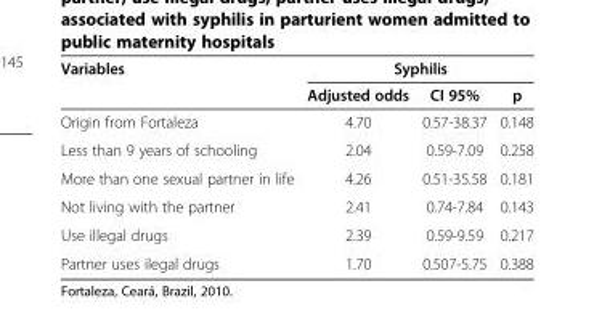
<table><thead><tr><td rowspan="2">Variables</td><td colspan="3">Syphilis</td></tr><tr><td>Adjusted odds</td><td>CI 95%</td><td>p</td></tr></thead><tbody><tr><td>Origin from Fortaleza</td><td>4.70</td><td>0.57-38.37</td><td>0.148</td></tr><tr><td>Less than 9 years of schooling</td><td>2.04</td><td>0.59-7.09</td><td>0.258</td></tr><tr><td>More than one sexual partner in life</td><td>4.26</td><td>0.51-35.58</td><td>0.181</td></tr><tr><td>Not living with the partner</td><td>2.41</td><td>0.74-7.84</td><td>0.143</td></tr><tr><td>Use illegal drugs</td><td>2.39</td><td>0.59-9.59</td><td>0.217</td></tr><tr><td>Partner uses ilegal drugs</td><td>1.70</td><td>0.507-5.75</td><td>0.388</td></tr></tbody></table>